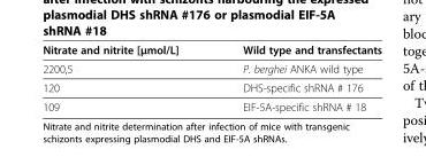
<table><thead><tr><td>Nitrate and nitrite [μmol/L]</td><td>Wild type and transfectants</td></tr></thead><tbody><tr><td>2200,5</td><td>P. berghei ANKA wild type</td></tr><tr><td>120</td><td>DHS-specific shRNA # 176</td></tr><tr><td>109</td><td>EIF-5A-specific shRNA # 18</td></tr></tbody></table>